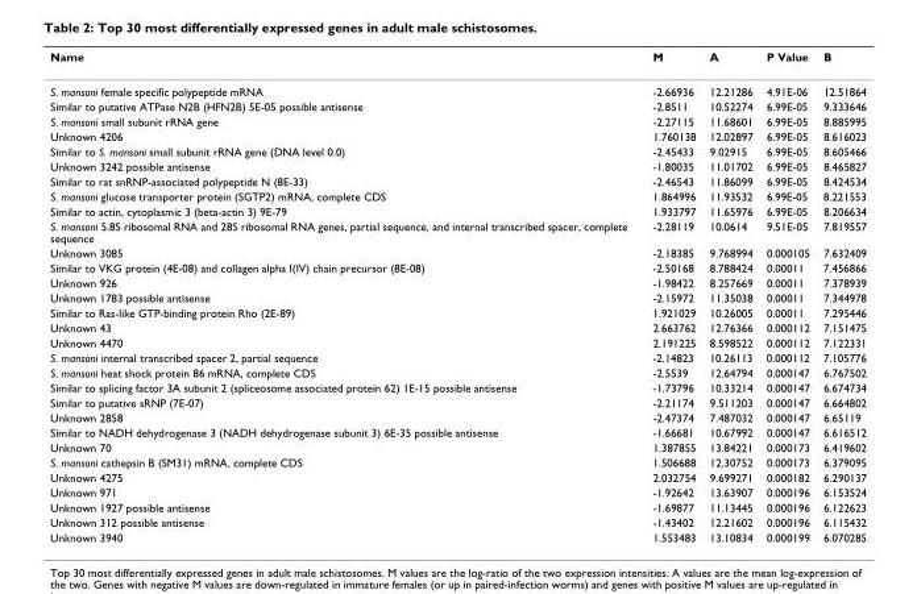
<table><thead><tr><td>Name</td><td>M</td><td>A</td><td>P Value</td><td>B</td></tr></thead><tbody><tr><td>S. mansoni female specific polypeptide mRNA</td><td>-2.66936</td><td>12.21286</td><td>4.91E-06</td><td>12.51864</td></tr><tr><td>Similar to putative ATPase N2B (HFN2B) 5E-05 possible antisense</td><td>-2.8511</td><td>10.52274</td><td>6.99E-05</td><td>9.333646</td></tr><tr><td>S. mansoni small subunit rRNA gene</td><td>-2.27115</td><td>11.68601</td><td>6.99E-05</td><td>8.885995</td></tr><tr><td>Unknown 4206</td><td>1.760138</td><td>12.02897</td><td>6.99E-05</td><td>8.616023</td></tr><tr><td>Similar to S. mansoni small subunit rRNA gene (DNA level 0.0)</td><td>-2.45433</td><td>9.02915</td><td>6.99E-05</td><td>8.605466</td></tr><tr><td>Unknown 3242 possible antisense</td><td>-1.80035</td><td>11.01702</td><td>6.99E-05</td><td>8.465827</td></tr><tr><td>Similar to rat snRNP-associated polypeptide N (8E-33)</td><td>-2.46543</td><td>11.86099</td><td>6.99E-05</td><td>8.424534</td></tr><tr><td>S. mansoni glucose transporter protein (SGTP2) mRNA, complete CDS</td><td>1.864996</td><td>11.93532</td><td>6.99E-05</td><td>8.221553</td></tr><tr><td>Similar to actin, cytoplasmic 3 (beta-actin 3) 9E-79</td><td>1.933797</td><td>11.65976</td><td>6.99E-05</td><td>8.206634</td></tr><tr><td>S. mansoni 5.8S ribosomal RNA and 28S ribosomal RNA genes, partial sequence, and internal transcribed spacer, complete sequence</td><td>-2.28119</td><td>10.0614</td><td>9.51E-05</td><td>7.819557</td></tr><tr><td>Unknown 3085</td><td>-2.18385</td><td>9.768994</td><td>0.000105</td><td>7.632409</td></tr><tr><td>Similar to VKG protein (4E-08) and collagen alpha I(IV) chain precursor (8E-08)</td><td>-2.50168</td><td>8.788424</td><td>0.00011</td><td>7.456866</td></tr><tr><td>Unknown 926</td><td>-1.98422</td><td>8.257669</td><td>0.00011</td><td>7.378939</td></tr><tr><td>Unknown 1783 possible antisense</td><td>-2.15972</td><td>11.35038</td><td>0.00011</td><td>7.344978</td></tr><tr><td>Similar to Ras-like GTP-binding protein Rho (2E-89)</td><td>1.921029</td><td>10.26005</td><td>0.00011</td><td>7.295446</td></tr><tr><td>Unknown 43</td><td>2.663762</td><td>12.76366</td><td>0.000112</td><td>7.151475</td></tr><tr><td>Unknown 4470</td><td>2.191225</td><td>8.598522</td><td>0.000112</td><td>7.122331</td></tr><tr><td>S. mansoni internal transcribed spacer 2, partial sequence</td><td>-2.14823</td><td>10.26113</td><td>0.000112</td><td>7.105776</td></tr><tr><td>S. mansoni heat shock protein 86 mRNA, complete CDS</td><td>-2.5539</td><td>12.64794</td><td>0.000147</td><td>6.767502</td></tr><tr><td>Similar to splicing factor 3A subunit 2 (spliceosome associated protein 62) 1E-15 possible antisense</td><td>-1.73796</td><td>10.33214</td><td>0.000147</td><td>6.674734</td></tr><tr><td>Similar to putative sRNP (7E-07)</td><td>-2.21174</td><td>9.511203</td><td>0.000147</td><td>6.664802</td></tr><tr><td>Unknown 2858</td><td>-2.47374</td><td>7.487032</td><td>0.000147</td><td>6.65119</td></tr><tr><td>Similar to NADH dehydrogenase 3 (NADH dehydrogenase subunit 3) 6E-35 possible antisense</td><td>-1.66681</td><td>10.67992</td><td>0.000147</td><td>6.616512</td></tr><tr><td>Unknown 70</td><td>1.387855</td><td>13.84221</td><td>0.000173</td><td>6.419602</td></tr><tr><td>S. mansoni cathepsin B (SM31) mRNA, complete CDS</td><td>1.506688</td><td>12.30752</td><td>0.000173</td><td>6.379095</td></tr><tr><td>Unknown 4275</td><td>2.032754</td><td>9.699271</td><td>0.000182</td><td>6.290137</td></tr><tr><td>Unknown 971</td><td>-1.92642</td><td>13.63907</td><td>0.000196</td><td>6.153524</td></tr><tr><td>Unknown 1927 possible antisense</td><td>-1.69877</td><td>11.13445</td><td>0.000196</td><td>6.122623</td></tr><tr><td>Unknown 312 possible antisense</td><td>-1.43402</td><td>12.21602</td><td>0.000196</td><td>6.115432</td></tr><tr><td>Unknown 3940</td><td>1.553483</td><td>13.10834</td><td>0.000199</td><td>6.070285</td></tr></tbody></table>